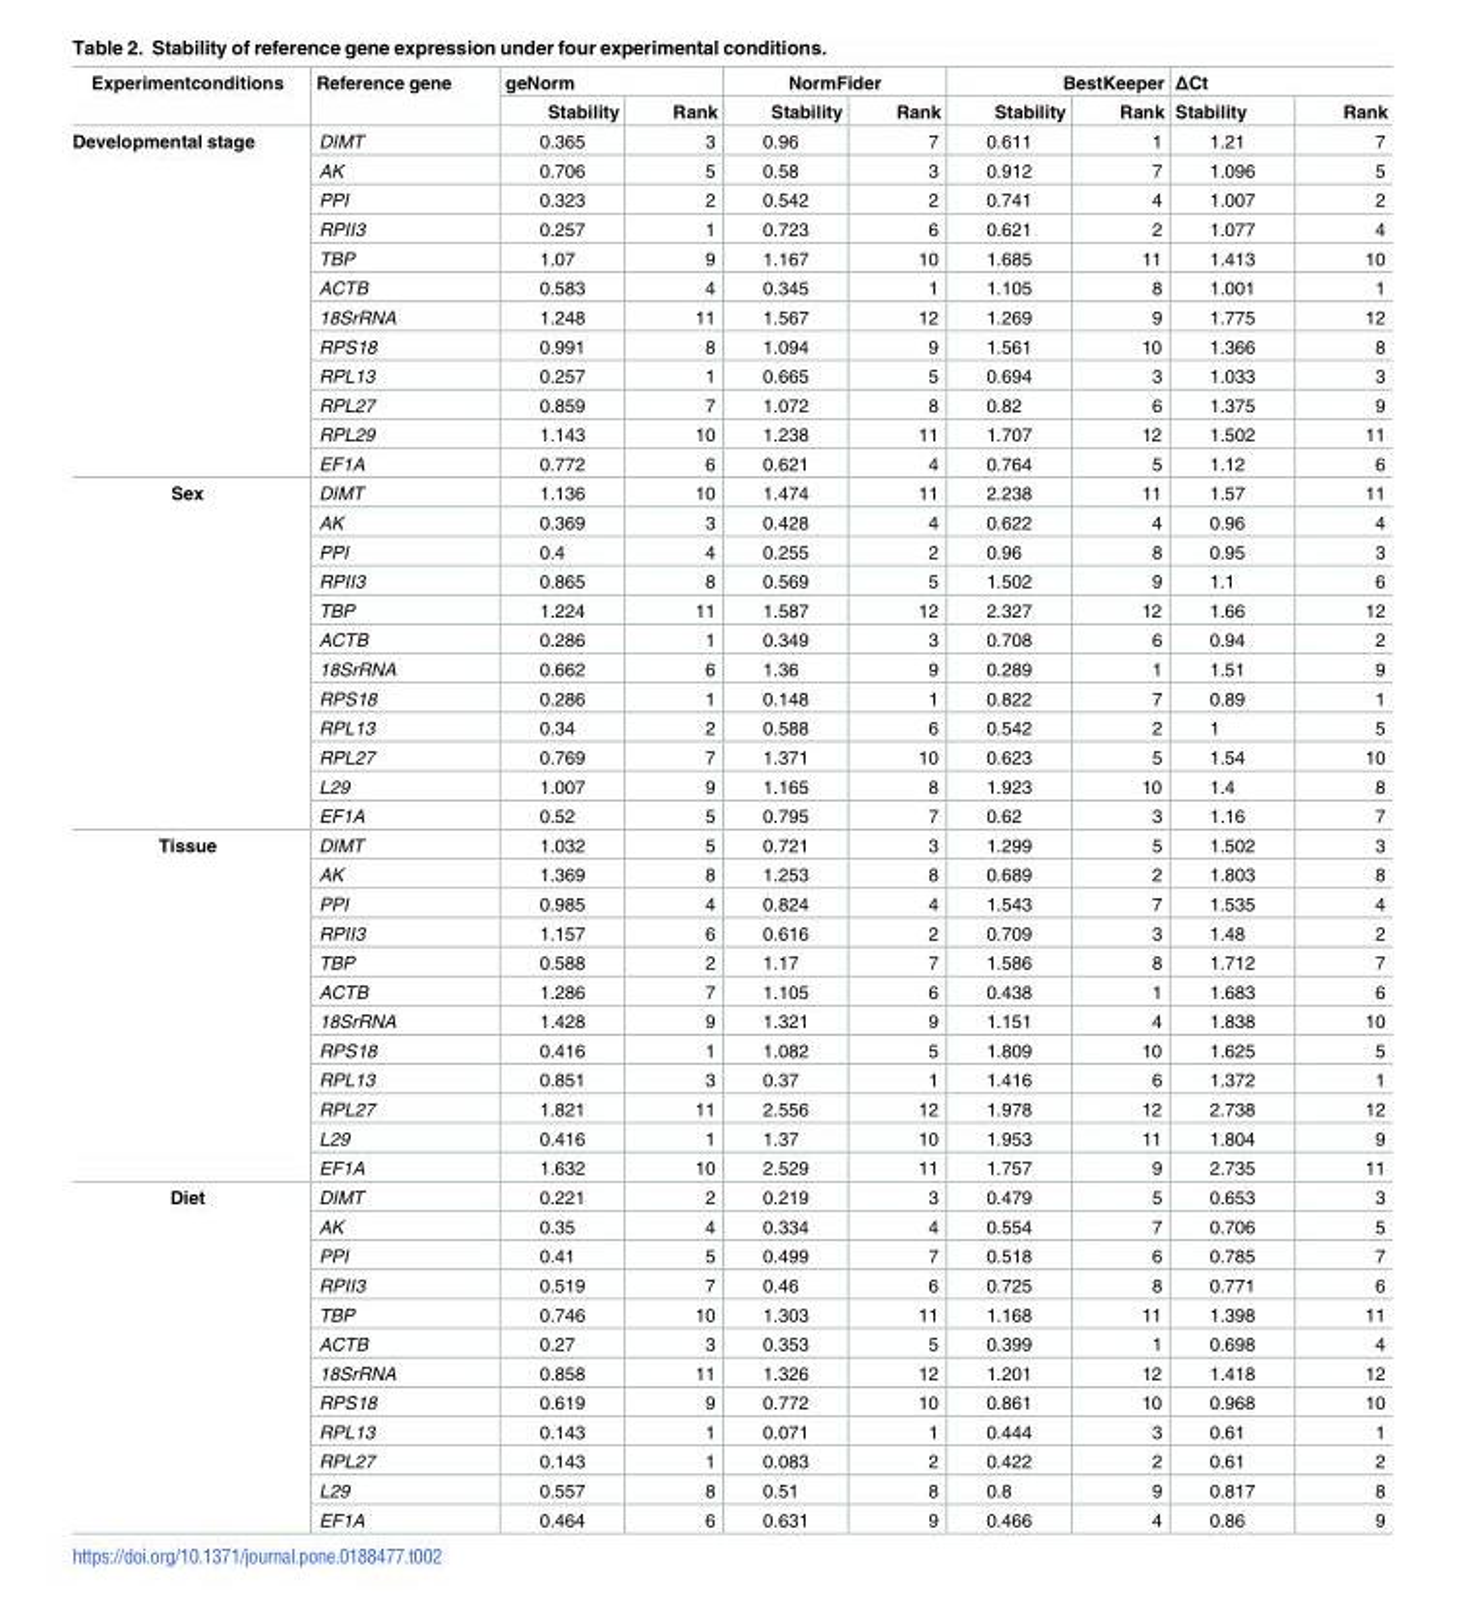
<table><thead><tr><td rowspan="2">Experimentconditions</td><td rowspan="2">Reference gene</td><td colspan="2">geNorm</td><td colspan="2">NormFider</td><td colspan="2">BestKeeper</td><td colspan="2">ΔCt</td></tr><tr><td>Stability</td><td>Rank</td><td>Stability</td><td>Rank</td><td>Stability</td><td>Rank</td><td>Stability</td><td>Rank</td></tr></thead><tbody><tr><td rowspan="12">Developmental stage</td><td>DIMT</td><td>0.365</td><td>3</td><td>0.96</td><td>7</td><td>0.611</td><td>1</td><td>1.21</td><td>7</td></tr><tr><td>AK</td><td>0.706</td><td>5</td><td>0.58</td><td>3</td><td>0.912</td><td>7</td><td>1.096</td><td>5</td></tr><tr><td>PPI</td><td>0.323</td><td>2</td><td>0.542</td><td>2</td><td>0.741</td><td>4</td><td>1.007</td><td>2</td></tr><tr><td>RPII3</td><td>0.257</td><td>1</td><td>0.723</td><td>6</td><td>0.621</td><td>2</td><td>1.077</td><td>4</td></tr><tr><td>TBP</td><td>1.07</td><td>9</td><td>1.167</td><td>10</td><td>1.685</td><td>11</td><td>1.413</td><td>10</td></tr><tr><td>ACTB</td><td>0.583</td><td>4</td><td>0.345</td><td>1</td><td>1.105</td><td>8</td><td>1.001</td><td>1</td></tr><tr><td>18SrRNA</td><td>1.248</td><td>11</td><td>1.567</td><td>12</td><td>1.269</td><td>9</td><td>1.775</td><td>12</td></tr><tr><td>RPS18</td><td>0.991</td><td>8</td><td>1.094</td><td>9</td><td>1.561</td><td>10</td><td>1.366</td><td>8</td></tr><tr><td>RPL13</td><td>0.257</td><td>1</td><td>0.665</td><td>5</td><td>0.694</td><td>3</td><td>1.033</td><td>3</td></tr><tr><td>RPL27</td><td>0.859</td><td>7</td><td>1.072</td><td>8</td><td>0.82</td><td>6</td><td>1.375</td><td>9</td></tr><tr><td>RPL29</td><td>1.143</td><td>10</td><td>1.238</td><td>11</td><td>1.707</td><td>12</td><td>1.502</td><td>11</td></tr><tr><td>EF1A</td><td>0.772</td><td>6</td><td>0.621</td><td>4</td><td>0.764</td><td>5</td><td>1.12</td><td>6</td></tr><tr><td rowspan="12">Sex</td><td>DIMT</td><td>1.136</td><td>10</td><td>1.474</td><td>11</td><td>2.238</td><td>11</td><td>1.57</td><td>11</td></tr><tr><td>AK</td><td>0.369</td><td>3</td><td>0.428</td><td>4</td><td>0.622</td><td>4</td><td>0.96</td><td>4</td></tr><tr><td>PPI</td><td>0.4</td><td>4</td><td>0.255</td><td>2</td><td>0.96</td><td>8</td><td>0.95</td><td>3</td></tr><tr><td>RPII3</td><td>0.865</td><td>8</td><td>0.569</td><td>5</td><td>1.502</td><td>9</td><td>1.1</td><td>6</td></tr><tr><td>TBP</td><td>1.224</td><td>11</td><td>1.587</td><td>12</td><td>2.327</td><td>12</td><td>1.66</td><td>12</td></tr><tr><td>ACTB</td><td>0.286</td><td>1</td><td>0.349</td><td>3</td><td>0.708</td><td>6</td><td>0.94</td><td>2</td></tr><tr><td>18SrRNA</td><td>0.662</td><td>6</td><td>1.36</td><td>9</td><td>0.289</td><td>1</td><td>1.51</td><td>9</td></tr><tr><td>RPS18</td><td>0.286</td><td>1</td><td>0.148</td><td>1</td><td>0.822</td><td>7</td><td>0.89</td><td>1</td></tr><tr><td>RPL13</td><td>0.34</td><td>2</td><td>0.588</td><td>6</td><td>0.542</td><td>2</td><td>1</td><td>5</td></tr><tr><td>RPL27</td><td>0.769</td><td>7</td><td>1.371</td><td>10</td><td>0.623</td><td>5</td><td>1.54</td><td>10</td></tr><tr><td>L29</td><td>1.007</td><td>9</td><td>1.165</td><td>8</td><td>1.923</td><td>10</td><td>1.4</td><td>8</td></tr><tr><td>EF1A</td><td>0.52</td><td>5</td><td>0.795</td><td>7</td><td>0.62</td><td>3</td><td>1.16</td><td>7</td></tr><tr><td rowspan="12">Tissue</td><td>DIMT</td><td>1.032</td><td>5</td><td>0.721</td><td>3</td><td>1.299</td><td>5</td><td>1.502</td><td>3</td></tr><tr><td>AK</td><td>1.369</td><td>8</td><td>1.253</td><td>8</td><td>0.689</td><td>2</td><td>1.803</td><td>8</td></tr><tr><td>PPI</td><td>0.985</td><td>4</td><td>0.824</td><td>4</td><td>1.543</td><td>7</td><td>1.535</td><td>4</td></tr><tr><td>RPII3</td><td>1.157</td><td>6</td><td>0.616</td><td>2</td><td>0.709</td><td>3</td><td>1.48</td><td>2</td></tr><tr><td>TBP</td><td>0.588</td><td>2</td><td>1.17</td><td>7</td><td>1.586</td><td>8</td><td>1.712</td><td>7</td></tr><tr><td>ACTB</td><td>1.286</td><td>7</td><td>1.105</td><td>6</td><td>0.438</td><td>1</td><td>1.683</td><td>6</td></tr><tr><td>18SrRNA</td><td>1.428</td><td>9</td><td>1.321</td><td>9</td><td>1.151</td><td>4</td><td>1.838</td><td>10</td></tr><tr><td>RPS18</td><td>0.416</td><td>1</td><td>1.082</td><td>5</td><td>1.809</td><td>10</td><td>1.625</td><td>5</td></tr><tr><td>RPL13</td><td>0.851</td><td>3</td><td>0.37</td><td>1</td><td>1.416</td><td>6</td><td>1.372</td><td>1</td></tr><tr><td>RPL27</td><td>1.821</td><td>11</td><td>2.556</td><td>12</td><td>1.978</td><td>12</td><td>2.738</td><td>12</td></tr><tr><td>L29</td><td>0.416</td><td>1</td><td>1.37</td><td>10</td><td>1.953</td><td>11</td><td>1.804</td><td>9</td></tr><tr><td>EF1A</td><td>1.632</td><td>10</td><td>2.529</td><td>11</td><td>1.757</td><td>9</td><td>2.735</td><td>11</td></tr><tr><td rowspan="12">Diet</td><td>DIMT</td><td>0.221</td><td>2</td><td>0.219</td><td>3</td><td>0.479</td><td>5</td><td>0.653</td><td>3</td></tr><tr><td>AK</td><td>0.35</td><td>4</td><td>0.334</td><td>4</td><td>0.554</td><td>7</td><td>0.706</td><td>5</td></tr><tr><td>PPI</td><td>0.41</td><td>5</td><td>0.499</td><td>7</td><td>0.518</td><td>6</td><td>0.785</td><td>7</td></tr><tr><td>RPII3</td><td>0.519</td><td>7</td><td>0.46</td><td>6</td><td>0.725</td><td>8</td><td>0.771</td><td>6</td></tr><tr><td>TBP</td><td>0.746</td><td>10</td><td>1.303</td><td>11</td><td>1.168</td><td>11</td><td>1.398</td><td>11</td></tr><tr><td>ACTB</td><td>0.27</td><td>3</td><td>0.353</td><td>5</td><td>0.399</td><td>1</td><td>0.698</td><td>4</td></tr><tr><td>18SrRNA</td><td>0.858</td><td>11</td><td>1.326</td><td>12</td><td>1.201</td><td>12</td><td>1.418</td><td>12</td></tr><tr><td>RPS18</td><td>0.619</td><td>9</td><td>0.772</td><td>10</td><td>0.861</td><td>10</td><td>0.968</td><td>10</td></tr><tr><td>RPL13</td><td>0.143</td><td>1</td><td>0.071</td><td>1</td><td>0.444</td><td>3</td><td>0.61</td><td>1</td></tr><tr><td>RPL27</td><td>0.143</td><td>1</td><td>0.083</td><td>2</td><td>0.422</td><td>2</td><td>0.61</td><td>2</td></tr><tr><td>L29</td><td>0.557</td><td>8</td><td>0.51</td><td>8</td><td>0.8</td><td>9</td><td>0.817</td><td>8</td></tr><tr><td>EF1A</td><td>0.464</td><td>6</td><td>0.631</td><td>9</td><td>0.466</td><td>4</td><td>0.86</td><td>9</td></tr></tbody></table>